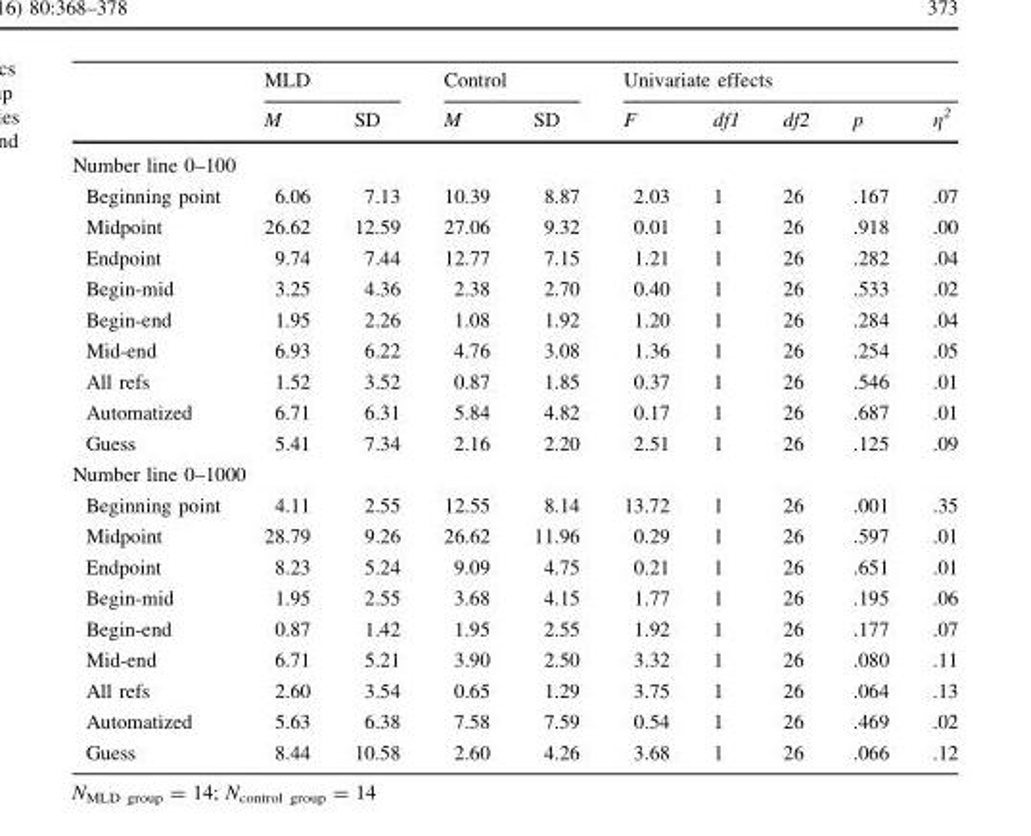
<table><thead><tr><td rowspan="2"></td><td colspan="2">MLD</td><td colspan="2">Control</td><td colspan="5">Univariate effects</td></tr><tr><td>M</td><td>SD</td><td>M</td><td>SD</td><td>F</td><td>df1</td><td>df2</td><td>p</td><td>η<sup>2</sup></td></tr></thead><tbody><tr><td colspan="10">Number line 0–100</td></tr><tr><td>Beginning point</td><td>6.06</td><td>7.13</td><td>10.39</td><td>8.87</td><td>2.03</td><td>1</td><td>26</td><td>.167</td><td>.07</td></tr><tr><td>Midpoint</td><td>26.62</td><td>12.59</td><td>27.06</td><td>9.32</td><td>0.01</td><td>1</td><td>26</td><td>.918</td><td>.00</td></tr><tr><td>Endpoint</td><td>9.74</td><td>7.44</td><td>12.77</td><td>7.15</td><td>1.21</td><td>1</td><td>26</td><td>.282</td><td>.04</td></tr><tr><td>Begin-mid</td><td>3.25</td><td>4.36</td><td>2.38</td><td>2.70</td><td>0.40</td><td>1</td><td>26</td><td>.533</td><td>.02</td></tr><tr><td>Begin-end</td><td>1.95</td><td>2.26</td><td>1.08</td><td>1.92</td><td>1.20</td><td>1</td><td>26</td><td>.284</td><td>.04</td></tr><tr><td>Mid-end</td><td>6.93</td><td>6.22</td><td>4.76</td><td>3.08</td><td>1.36</td><td>1</td><td>26</td><td>.254</td><td>.05</td></tr><tr><td>All refs</td><td>1.52</td><td>3.52</td><td>0.87</td><td>1.85</td><td>0.37</td><td>1</td><td>26</td><td>.546</td><td>.01</td></tr><tr><td>Automatized</td><td>6.71</td><td>6.31</td><td>5.84</td><td>4.82</td><td>0.17</td><td>1</td><td>26</td><td>.687</td><td>.01</td></tr><tr><td>Guess</td><td>5.41</td><td>7.34</td><td>2.16</td><td>2.20</td><td>2.51</td><td>1</td><td>26</td><td>.125</td><td>.09</td></tr><tr><td colspan="10">Number line 0–1000</td></tr><tr><td>Beginning point</td><td>4.11</td><td>2.55</td><td>12.55</td><td>8.14</td><td>13.72</td><td>1</td><td>26</td><td>.001</td><td>.35</td></tr><tr><td>Midpoint</td><td>28.79</td><td>9.26</td><td>26.62</td><td>11.96</td><td>0.29</td><td>1</td><td>26</td><td>.597</td><td>.01</td></tr><tr><td>Endpoint</td><td>8.23</td><td>5.24</td><td>9.09</td><td>4.75</td><td>0.21</td><td>1</td><td>26</td><td>.651</td><td>.01</td></tr><tr><td>Begin-mid</td><td>1.95</td><td>2.55</td><td>3.68</td><td>4.15</td><td>1.77</td><td>1</td><td>26</td><td>.195</td><td>.06</td></tr><tr><td>Begin-end</td><td>0.87</td><td>1.42</td><td>1.95</td><td>2.55</td><td>1.92</td><td>1</td><td>26</td><td>.177</td><td>.07</td></tr><tr><td>Mid-end</td><td>6.71</td><td>5.21</td><td>3.90</td><td>2.50</td><td>3.32</td><td>1</td><td>26</td><td>.080</td><td>.11</td></tr><tr><td>All refs</td><td>2.60</td><td>3.54</td><td>0.65</td><td>1.29</td><td>3.75</td><td>1</td><td>26</td><td>.064</td><td>.13</td></tr><tr><td>Automatized</td><td>5.63</td><td>6.38</td><td>7.58</td><td>7.59</td><td>0.54</td><td>1</td><td>26</td><td>.469</td><td>.02</td></tr><tr><td>Guess</td><td>8.44</td><td>10.58</td><td>2.60</td><td>4.26</td><td>3.68</td><td>1</td><td>26</td><td>.066</td><td>.12</td></tr></tbody></table>